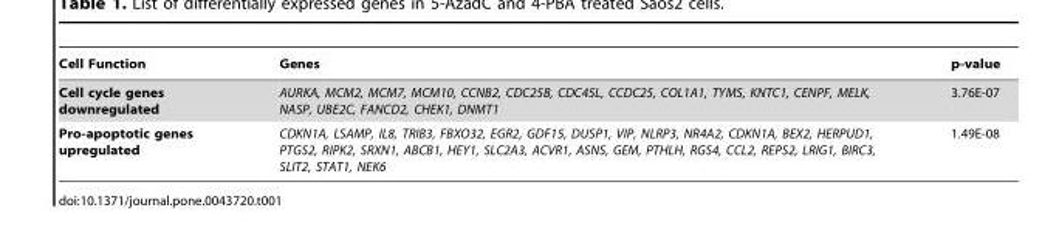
<table><thead><tr><td>Cell Function</td><td>Genes</td><td>p-value</td></tr></thead><tbody><tr><td>Cell cycle genes downregulated</td><td>AURKA, MCM2, MCM7, MCM10, CCNB2, CDC25B, CDC45L, CCDC25, COL1A1, TYMS, KNTC1, CENPF, MELK, NASP, UBE2C, FANCD2, CHEK1, DNMT1</td><td>3.76E-07</td></tr><tr><td>Pro-apoptotic genes upregulated</td><td>CDKN1A, LSAMP, IL8, TRIB3, FBXO32, EGR2, GDF15, DUSP1, VIP, NLRP3, NR4A2, CDKN1A, BEX2, HERPUD1, PTGS2, RIPK2, SRXN1, ABCB1, HEY1, SLC2A3, ACVR1, ASNS, GEM, PTHLH, RGS4, CCL2, REPS2, LRIG1, BIRC3, SLIT2, STAT1, NEK6</td><td>1.49E-08</td></tr></tbody></table>